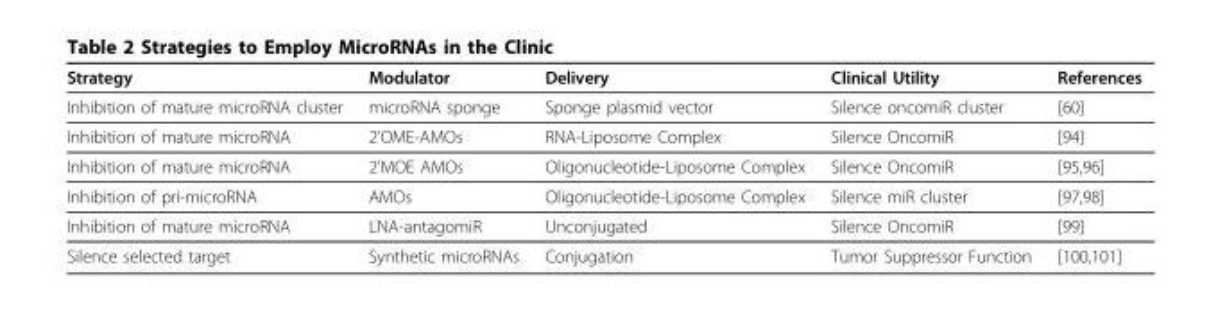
<table><thead><tr><td>Strategy</td><td>Modulator</td><td>Delivery</td><td>Clinical Utility</td><td>References</td></tr></thead><tbody><tr><td>Inhibition of mature microRNA cluster</td><td>microRNA sponge</td><td>Sponge plasmid vector</td><td>Silence oncomiR cluster</td><td>[60]</td></tr><tr><td>Inhibition of mature microRNA</td><td>2’OME-AMOs</td><td>RNA-Liposome Complex</td><td>Silence OncomiR</td><td>[94]</td></tr><tr><td>Inhibition of mature microRNA</td><td>2’MOE AMOs</td><td>Oligonucleotide-Liposome Complex</td><td>Silence OncomiR</td><td>[95,96]</td></tr><tr><td>Inhibition of pri-microRNA</td><td>AMOs</td><td>Oligonucleotide-Liposome Complex</td><td>Silence miR cluster</td><td>[97,98]</td></tr><tr><td>Inhibition of mature microRNA</td><td>LNA-antagomiR</td><td>Unconjugated</td><td>Silence OncomiR</td><td>[99]</td></tr><tr><td>Silence selected target</td><td>Synthetic microRNAs</td><td>Conjugation</td><td>Tumor Suppressor Function</td><td>[100,101]</td></tr></tbody></table>